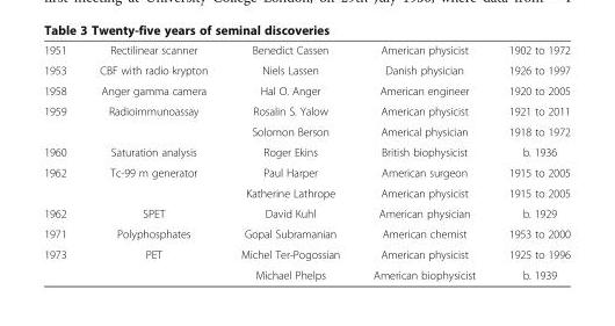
<table><tbody><tr><td>1951</td><td>Rectilinear scanner</td><td>Benedict Cassen</td><td>American physicist</td><td>1902 to 1972</td></tr><tr><td>1953</td><td>CBF with radio krypton</td><td>Niels Lassen</td><td>Danish physician</td><td>1926 to 1997</td></tr><tr><td>1958</td><td>Anger gamma camera</td><td>Hal O. Anger</td><td>American engineer</td><td>1920 to 2005</td></tr><tr><td rowspan="2">1959</td><td>Radioimmunoassay</td><td>Rosalin S. Yalow</td><td>American physicist</td><td>1921 to 2011</td></tr><tr><td></td><td>Solomon Berson</td><td>Americal physician</td><td>1918 to 1972</td></tr><tr><td>1960</td><td>Saturation analysis</td><td>Roger Ekins</td><td>British biophysicist</td><td>b. 1936</td></tr><tr><td rowspan="2">1962</td><td>Tc-99 m generator</td><td>Paul Harper</td><td>American surgeon</td><td>1915 to 2005</td></tr><tr><td></td><td>Katherine Lathrope</td><td>American physicist</td><td>1915 to 2005</td></tr><tr><td>1962</td><td>SPET</td><td>David Kuhl</td><td>American physician</td><td>b. 1929</td></tr><tr><td>1971</td><td>Polyphosphates</td><td>Gopal Subramanian</td><td>American chemist</td><td>1953 to 2000</td></tr><tr><td rowspan="2">1973</td><td>PET</td><td>Michel Ter-Pogossian</td><td>American physicist</td><td>1925 to 1996</td></tr><tr><td></td><td>Michael Phelps</td><td>American biophysicist</td><td>b. 1939</td></tr></tbody></table>